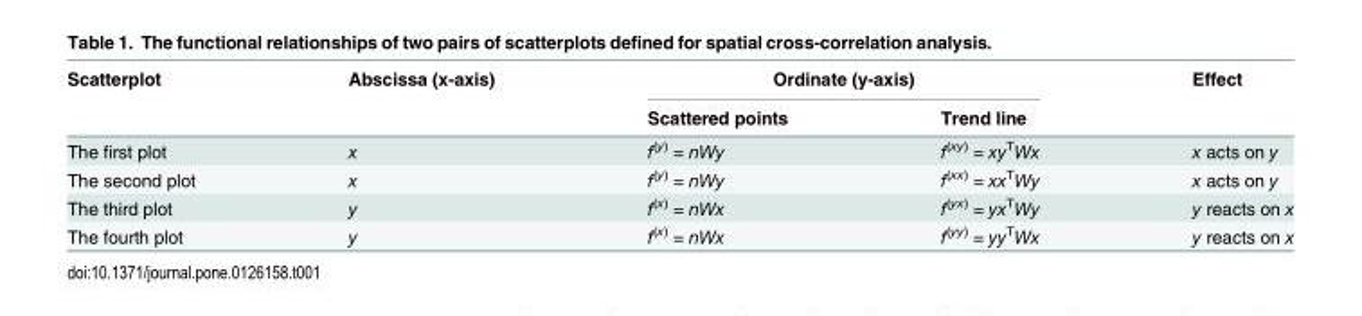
<table><thead><tr><td rowspan="2">Scatterplot</td><td rowspan="2">Abscissa (x-axis)</td><td colspan="2">Ordinate (y-axis)</td><td rowspan="2">Effect</td></tr><tr><td>Scattered points</td><td>Trend line</td></tr></thead><tbody><tr><td>The first plot</td><td>x</td><td>f<sup>(y)</sup> = nWy</td><td>f<sup>(xy)</sup> = xy<sup>T</sup>Wx</td><td>x acts on y</td></tr><tr><td>The second plot</td><td>x</td><td>f<sup>(y)</sup> = nWy</td><td>f<sup>(xx)</sup> = xx<sup>T</sup>Wy</td><td>x acts on y</td></tr><tr><td>The third plot</td><td>y</td><td>f<sup>(x)</sup> = nWx</td><td>f<sup>(yx)</sup> = yx<sup>T</sup>Wy</td><td>y reacts on x</td></tr><tr><td>The fourth plot</td><td>y</td><td>f<sup>(x)</sup> = nWx</td><td>f<sup>(yy)</sup> = yy<sup>T</sup>Wx</td><td>y reacts on x</td></tr></tbody></table>